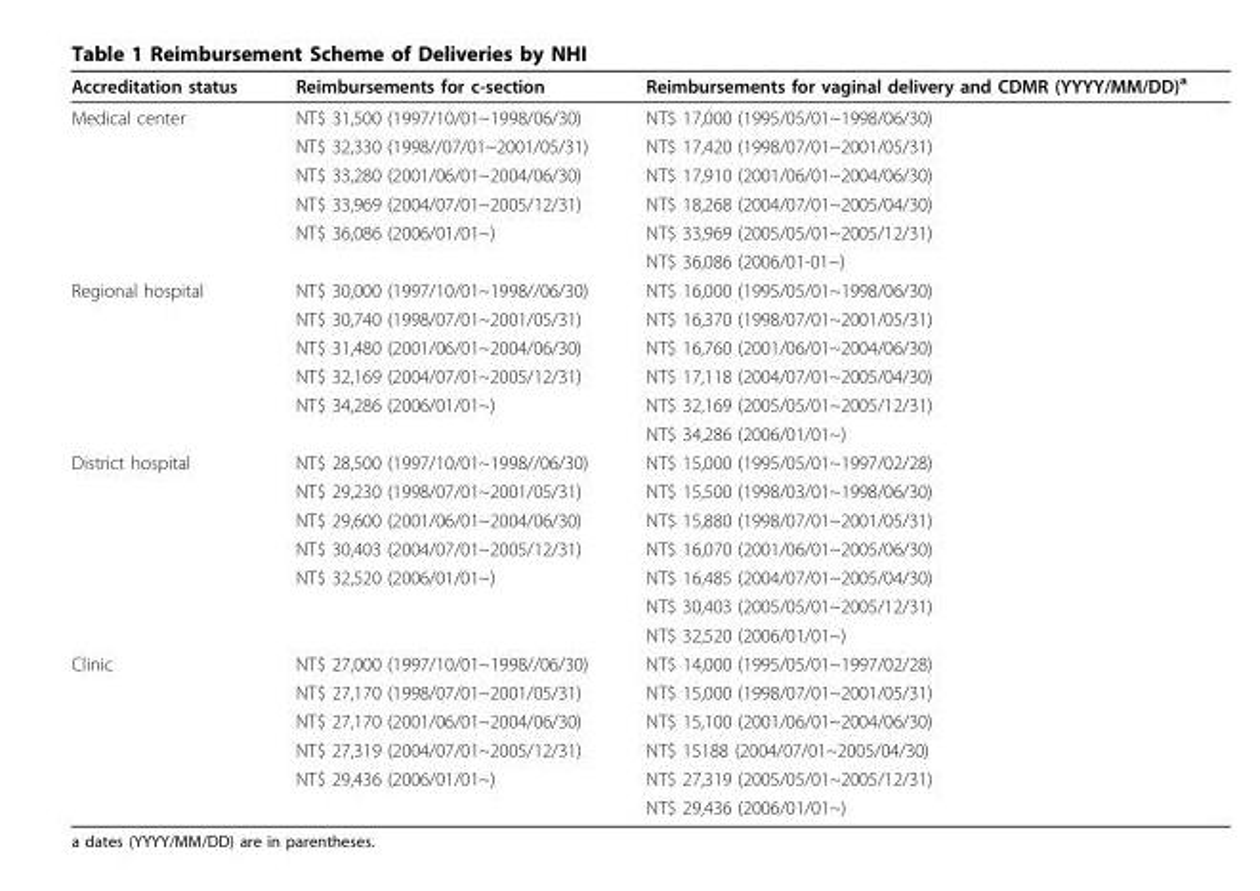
<table><thead><tr><td>Accreditation status</td><td>Reimbursements for c-section</td><td>Reimbursements for vaginal delivery and CDMR (YYYY/MM/DD)<sup>a</sup></td></tr></thead><tbody><tr><td rowspan="6">Medical center</td><td>NT$ 31,500 (1997/10/01~1998/06/30)</td><td>NT$ 17,000 (1995/05/01~1998/06/30)</td></tr><tr><td>NT$ 32,330 (1998//07/01~2001/05/31)</td><td>NT$ 17,420 (1998/07/01~2001/05/31)</td></tr><tr><td>NT$ 33,280 (2001/06/01~2004/06/30)</td><td>NT$ 17,910 (2001/06/01~2004/06/30)</td></tr><tr><td>NT$ 33,969 (2004/07/01~2005/12/31)</td><td>NT$ 18,268 (2004/07/01~2005/04/30)</td></tr><tr><td>NT$ 36,086 (2006/01/01~)</td><td>NT$ 33,969 (2005/05/01~2005/12/31)</td></tr><tr><td></td><td>NT$ 36,086 (2006/01-01~)</td></tr><tr><td rowspan="6">Regional hospital</td><td>NT$ 30,000 (1997/10/01~1998//06/30)</td><td>NT$ 16,000 (1995/05/01~1998/06/30)</td></tr><tr><td>NT$ 30,740 (1998/07/01~2001/05/31)</td><td>NT$ 16,370 (1998/07/01~2001/05/31)</td></tr><tr><td>NT$ 31,480 (2001/06/01~2004/06/30)</td><td>NT$ 16,760 (2001/06/01~2004/06/30)</td></tr><tr><td>NT$ 32,169 (2004/07/01~2005/12/31)</td><td>NT$ 17,118 (2004/07/01~2005/04/30)</td></tr><tr><td>NT$ 34,286 (2006/01/01~)</td><td>NT$ 32,169 (2005/05/01~2005/12/31)</td></tr><tr><td></td><td>NT$ 34,286 (2006/01/01~)</td></tr><tr><td rowspan="7">District hospital</td><td>NT$ 28,500 (1997/10/01~1998//06/30)</td><td>NT$ 15,000 (1995/05/01~1997/02/28)</td></tr><tr><td>NT$ 29,230 (1998/07/01~2001/05/31)</td><td>NT$ 15,500 (1998/03/01~1998/06/30)</td></tr><tr><td>NT$ 29,600 (2001/06/01~2004/06/30)</td><td>NT$ 15,880 (1998/07/01~2001/05/31)</td></tr><tr><td>NT$ 30,403 (2004/07/01~2005/12/31)</td><td>NT$ 16,070 (2001/06/01~2005/06/30)</td></tr><tr><td>NT$ 32,520 (2006/01/01~)</td><td>NT$ 16,485 (2004/07/01~2005/04/30)</td></tr><tr><td></td><td>NT$ 30,403 (2005/05/01~2005/12/31)</td></tr><tr><td></td><td>NT$ 32,520 (2006/01/01~)</td></tr><tr><td rowspan="6">Clinic</td><td>NT$ 27,000 (1997/10/01~1998//06/30)</td><td>NT$ 14,000 (1995/05/01~1997/02/28)</td></tr><tr><td>NT$ 27,170 (1998/07/01~2001/05/31)</td><td>NT$ 15,000 (1998/07/01~2001/05/31)</td></tr><tr><td>NT$ 27,170 (2001/06/01~2004/06/30)</td><td>NT$ 15,100 (2001/06/01~2004/06/30)</td></tr><tr><td>NT$ 27,319 (2004/07/01~2005/12/31)</td><td>NT$ 15188 (2004/07/01~2005/04/30)</td></tr><tr><td>NT$ 29,436 (2006/01/01~)</td><td>NT$ 27,319 (2005/05/01~2005/12/31)</td></tr><tr><td></td><td>NT$ 29,436 (2006/01/01~)</td></tr></tbody></table>